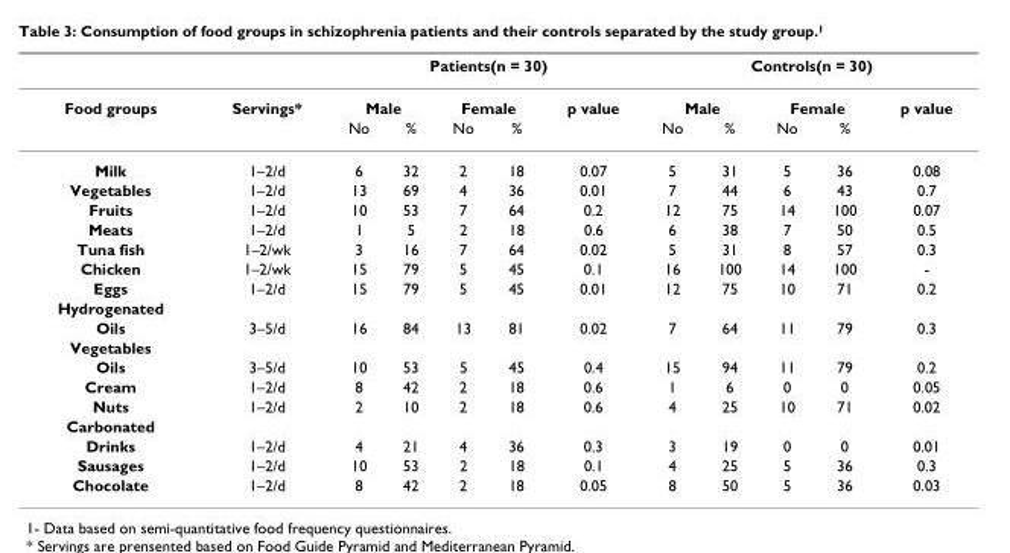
<table><thead><tr><td rowspan="3">Food groups</td><td rowspan="3">Servings*</td><td colspan="5">Patients(n = 30)</td><td colspan="5">Controls(n = 30)</td></tr><tr><td colspan="2">Male</td><td colspan="2">Female</td><td rowspan="2">p value</td><td colspan="2">Male</td><td colspan="2">Female</td><td rowspan="2">p value</td></tr><tr><td>No</td><td>%</td><td>No</td><td>%</td><td>No</td><td>%</td><td>No</td><td>%</td></tr></thead><tbody><tr><td>Milk</td><td>1–2/d</td><td>6</td><td>32</td><td>2</td><td>18</td><td>0.07</td><td>5</td><td>31</td><td>5</td><td>36</td><td>0.08</td></tr><tr><td>Vegetables</td><td>1–2/d</td><td>13</td><td>69</td><td>4</td><td>36</td><td>0.01</td><td>7</td><td>44</td><td>6</td><td>43</td><td>0.7</td></tr><tr><td>Fruits</td><td>1–2/d</td><td>10</td><td>53</td><td>7</td><td>64</td><td>0.2</td><td>12</td><td>75</td><td>14</td><td>100</td><td>0.07</td></tr><tr><td>Meats</td><td>1–2/d</td><td>1</td><td>5</td><td>2</td><td>18</td><td>0.6</td><td>6</td><td>38</td><td>7</td><td>50</td><td>0.5</td></tr><tr><td>Tuna fish</td><td>1–2/wk</td><td>3</td><td>16</td><td>7</td><td>64</td><td>0.02</td><td>5</td><td>31</td><td>8</td><td>57</td><td>0.3</td></tr><tr><td>Chicken</td><td>1–2/wk</td><td>15</td><td>79</td><td>5</td><td>45</td><td>0.1</td><td>16</td><td>100</td><td>14</td><td>100</td><td>-</td></tr><tr><td>Eggs</td><td>1–2/d</td><td>15</td><td>79</td><td>5</td><td>45</td><td>0.01</td><td>12</td><td>75</td><td>10</td><td>71</td><td>0.2</td></tr><tr><td colspan="12">Hydrogenated</td></tr><tr><td>Oils</td><td>3–5/d</td><td>16</td><td>84</td><td>13</td><td>81</td><td>0.02</td><td>7</td><td>64</td><td>11</td><td>79</td><td>0.3</td></tr><tr><td colspan="12">Vegetables</td></tr><tr><td>Oils</td><td>3–5/d</td><td>10</td><td>53</td><td>5</td><td>45</td><td>0.4</td><td>15</td><td>94</td><td>11</td><td>79</td><td>0.2</td></tr><tr><td>Cream</td><td>1–2/d</td><td>8</td><td>42</td><td>2</td><td>18</td><td>0.6</td><td>1</td><td>6</td><td>0</td><td>0</td><td>0.05</td></tr><tr><td>Nuts</td><td>1–2/d</td><td>2</td><td>10</td><td>2</td><td>18</td><td>0.6</td><td>4</td><td>25</td><td>10</td><td>71</td><td>0.02</td></tr><tr><td colspan="12">Carbonated</td></tr><tr><td>Drinks</td><td>1–2/d</td><td>4</td><td>21</td><td>4</td><td>36</td><td>0.3</td><td>3</td><td>19</td><td>0</td><td>0</td><td>0.01</td></tr><tr><td>Sausages</td><td>1–2/d</td><td>10</td><td>53</td><td>2</td><td>18</td><td>0.1</td><td>4</td><td>25</td><td>5</td><td>36</td><td>0.3</td></tr><tr><td>Chocolate</td><td>1–2/d</td><td>8</td><td>42</td><td>2</td><td>18</td><td>0.05</td><td>8</td><td>50</td><td>5</td><td>36</td><td>0.03</td></tr></tbody></table>